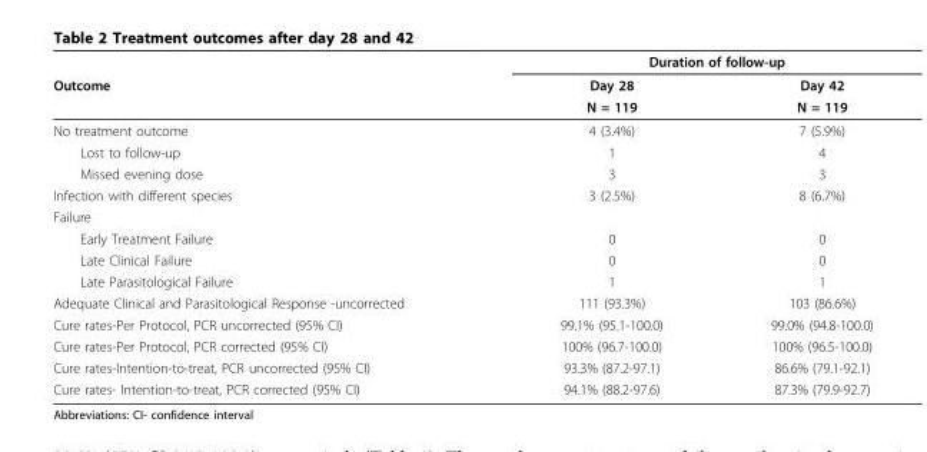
<table><thead><tr><td rowspan="3">Outcome</td><td colspan="2">Duration of follow-up</td></tr><tr><td rowspan="2">Day 28 N = 119</td><td rowspan="2">Day 42 N = 119</td></tr><tr></tr></thead><tbody><tr><td>No treatment outcome</td><td>4 (3.4%)</td><td>7 (5.9%)</td></tr><tr><td>Lost to follow-up</td><td>1</td><td>4</td></tr><tr><td>Missed evening dose</td><td>3</td><td>3</td></tr><tr><td>Infection with different species</td><td>3 (2.5%)</td><td>8 (6.7%)</td></tr><tr><td colspan="3">Failure</td></tr><tr><td>Early Treatment Failure</td><td>0</td><td>0</td></tr><tr><td>Late Clinical Failure</td><td>0</td><td>0</td></tr><tr><td>Late Parasitological Failure</td><td>1</td><td>1</td></tr><tr><td>Adequate Clinical and Parasitological Response -uncorrected</td><td>111 (93.3%)</td><td>103 (86.6%)</td></tr><tr><td>Cure rates-Per Protocol, PCR uncorrected (95% CI)</td><td>99.1% (95.1-100.0)</td><td>99.0% (94.8-100.0)</td></tr><tr><td>Cure rates-Per Protocol, PCR corrected (95% CI)</td><td>100% (96.7-100.0)</td><td>100% (96.5-100.0)</td></tr><tr><td>Cure rates-Intention-to-treat, PCR uncorrected (95% CI)</td><td>93.3% (87.2-97.1)</td><td>86.6% (79.1-92.1)</td></tr><tr><td>Cure rates- Intention-to-treat, PCR corrected (95% CI)</td><td>94.1% (88.2-97.6)</td><td>87.3% (79.9-92.7)</td></tr></tbody></table>